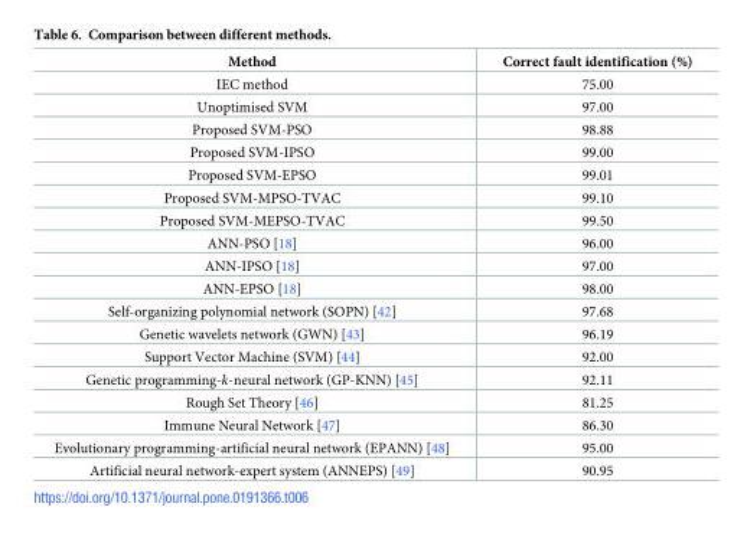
<table><thead><tr><td>Method</td><td>Correct fault identification (%)</td></tr></thead><tbody><tr><td>IEC method</td><td>75.00</td></tr><tr><td>Unoptimised SVM</td><td>97.00</td></tr><tr><td>Proposed SVM-PSO</td><td>98.88</td></tr><tr><td>Proposed SVM-IPSO</td><td>99.00</td></tr><tr><td>Proposed SVM-EPSO</td><td>99.01</td></tr><tr><td>Proposed SVM-MPSO-TVAC</td><td>99.10</td></tr><tr><td>Proposed SVM-MEPSO-TVAC</td><td>99.50</td></tr><tr><td>ANN-PSO [18]</td><td>96.00</td></tr><tr><td>ANN-IPSO [18]</td><td>97.00</td></tr><tr><td>ANN-EPSO [18]</td><td>98.00</td></tr><tr><td>Self-organizing polynomial network (SOPN) [42]</td><td>97.68</td></tr><tr><td>Genetic wavelets network (GWN) [43]</td><td>96.19</td></tr><tr><td>Support Vector Machine (SVM) [44]</td><td>92.00</td></tr><tr><td>Genetic programming-k-neural network (GP-KNN) [45]</td><td>92.11</td></tr><tr><td>Rough Set Theory [46]</td><td>81.25</td></tr><tr><td>Immune Neural Network [47]</td><td>86.30</td></tr><tr><td>Evolutionary programming-artificial neural network (EPANN) [48]</td><td>95.00</td></tr><tr><td>Artificial neural network-expert system (ANNEPS) [49]</td><td>90.95</td></tr></tbody></table>